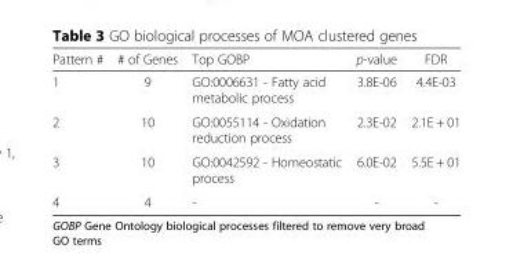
<table><thead><tr><td>Pattern #</td><td># of Genes</td><td>Top GOBP</td><td>p-value</td><td>FDR</td></tr></thead><tbody><tr><td>1</td><td>9</td><td>GO:0006631 - Fatty acid metabolic process</td><td>3.8E-06</td><td>4.4E-03</td></tr><tr><td>2</td><td>10</td><td>GO:0055114 - Oxidation reduction process</td><td>2.3E-02</td><td>2.1E + 01</td></tr><tr><td>3</td><td>10</td><td>GO:0042592 - Homeostatic process</td><td>6.0E-02</td><td>5.5E + 01</td></tr><tr><td>4</td><td>4</td><td>-</td><td>-</td><td>-</td></tr></tbody></table>